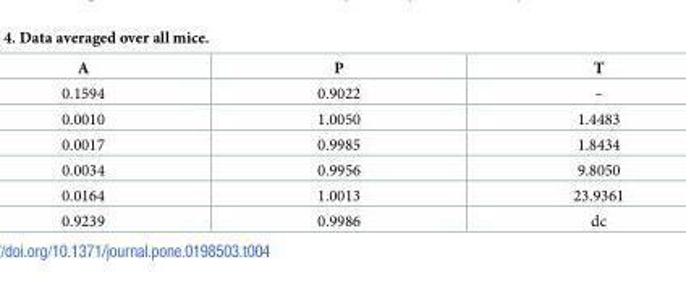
<table><thead><tr><td>A</td><td>P</td><td>T</td></tr></thead><tbody><tr><td>0.1594</td><td>0.9022</td><td>–</td></tr><tr><td>0.0010</td><td>1.0050</td><td>1.4483</td></tr><tr><td>0.0017</td><td>0.9985</td><td>1.8434</td></tr><tr><td>0.0034</td><td>0.9956</td><td>9.8050</td></tr><tr><td>0.0164</td><td>1.0013</td><td>23.9361</td></tr><tr><td>0.9239</td><td>0.9986</td><td>dc</td></tr></tbody></table>